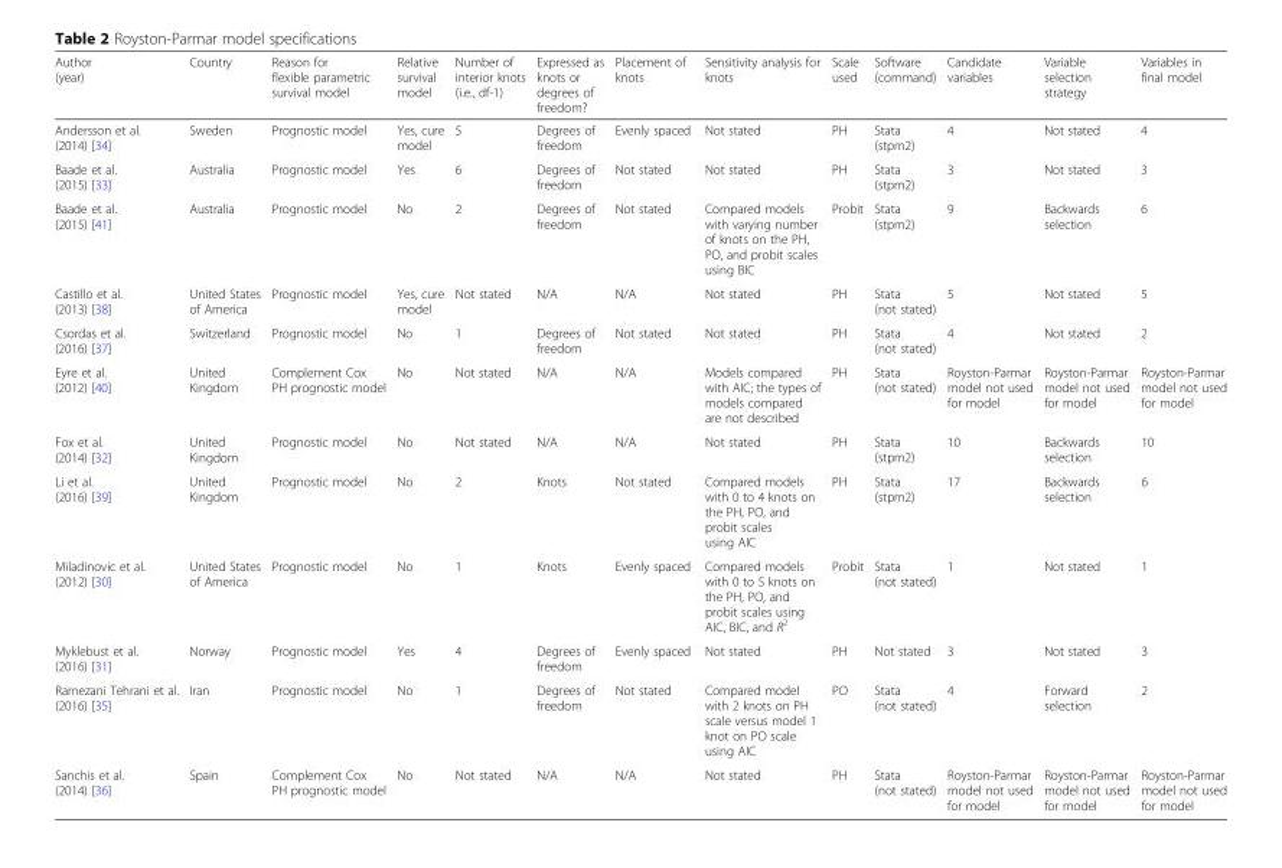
<table><thead><tr><td>Author (year)</td><td>Country</td><td>Reason for flexible parametric survival model</td><td>Relative survival model</td><td>Number of interior knots (i.e., df-1)</td><td>Expressed as knots or degrees of freedom?</td><td>Placement of knots</td><td>Sensitivity analysis for knots</td><td>Scale used</td><td>Software (command)</td><td>Candidate variables</td><td>Variable selection strategy</td><td>Variables in final model</td></tr></thead><tbody><tr><td>Andersson et al. (2014) [34]</td><td>Sweden</td><td>Prognostic model</td><td>Yes, cure model</td><td>5</td><td>Degrees of freedom</td><td>Evenly spaced</td><td>Not stated</td><td>PH</td><td>Stata (stpm2)</td><td>4</td><td>Not stated</td><td>4</td></tr><tr><td>Baade et al. (2015) [33]</td><td>Australia</td><td>Prognostic model</td><td>Yes</td><td>6</td><td>Degrees of freedom</td><td>Not stated</td><td>Not stated</td><td>PH</td><td>Stata (stpm2)</td><td>3</td><td>Not stated</td><td>3</td></tr><tr><td>Baade et al. (2015) [41]</td><td>Australia</td><td>Prognostic model</td><td>No</td><td>2</td><td>Degrees of freedom</td><td>Not stated</td><td>Compared models with varying number of knots on the PH, PO, and probit scales using BIC</td><td>Probit</td><td>Stata (stpm2)</td><td>9</td><td>Backwards selection</td><td>6</td></tr><tr><td>Castillo et al. (2013) [38]</td><td>United States of America</td><td>Prognostic model</td><td>Yes, cure model</td><td>Not stated</td><td>N/A</td><td>N/A</td><td>Not stated</td><td>PH</td><td>Stata (not stated)</td><td>5</td><td>Not stated</td><td>5</td></tr><tr><td>Csordas et al. (2016) [37]</td><td>Switzerland</td><td>Prognostic model</td><td>No</td><td>1</td><td>Degrees of freedom</td><td>Not stated</td><td>Not stated</td><td>PH</td><td>Stata (not stated)</td><td>4</td><td>Not stated</td><td>2</td></tr><tr><td>Eyre et al. (2012) [40]</td><td>United Kingdom</td><td>Complement Cox PH prognostic model</td><td>No</td><td>Not stated</td><td>N/A</td><td>N/A</td><td>Models compared with AIC; the types of models compared are not described</td><td>PH</td><td>Stata (not stated)</td><td>Royston-Parmar model not used for model</td><td>Royston-Parmar model not used for model</td><td>Royston-Parmar model not used for model</td></tr><tr><td>Fox et al. (2014) [32]</td><td>United Kingdom</td><td>Prognostic model</td><td>No</td><td>Not stated</td><td>N/A</td><td>N/A</td><td>Not stated</td><td>PH</td><td>Stata (stpm2)</td><td>10</td><td>Backwards selection</td><td>10</td></tr><tr><td>Li et al. (2016) [39]</td><td>United Kingdom</td><td>Prognostic model</td><td>No</td><td>2</td><td>Knots</td><td>Not stated</td><td>Compared models with 0 to 4 knots on the PH, PO, and probit scales using AIC</td><td>PH</td><td>Stata (stpm2)</td><td>17</td><td>Backwards selection</td><td>6</td></tr><tr><td>Miladinovic et al. (2012) [30]</td><td>United States of America</td><td>Prognostic model</td><td>No</td><td>1</td><td>Knots</td><td>Evenly spaced</td><td>Compared models with 0 to 5 knots on the PH, PO, and probit scales using AIC, BIC, and R<sup>2</sup></td><td>Probit</td><td>Stata (not stated)</td><td>1</td><td>Not stated</td><td>1</td></tr><tr><td>Myklebust et al. (2016) [31]</td><td>Norway</td><td>Prognostic model</td><td>Yes</td><td>4</td><td>Degrees of freedom</td><td>Evenly spaced</td><td>Not stated</td><td>PH</td><td>Not stated</td><td>3</td><td>Not stated</td><td>3</td></tr><tr><td>Ramezani Tehrani et al. (2016) [35]</td><td>Iran</td><td>Prognostic model</td><td>No</td><td>1</td><td>Degrees of freedom</td><td>Not stated</td><td>Compared model with 2 knots on PH scale versus model 1 knot on PO scale using AIC</td><td>PO</td><td>Stata (not stated)</td><td>4</td><td>Forward selection</td><td>2</td></tr><tr><td>Sanchis et al. (2014) [36]</td><td>Spain</td><td>Complement Cox PH prognostic model</td><td>No</td><td>Not stated</td><td>N/A</td><td>N/A</td><td>Not stated</td><td>PH</td><td>Stata (not stated)</td><td>Royston-Parmar model not used for model</td><td>Royston-Parmar model not used for model</td><td>Royston-Parmar model not used for model</td></tr></tbody></table>